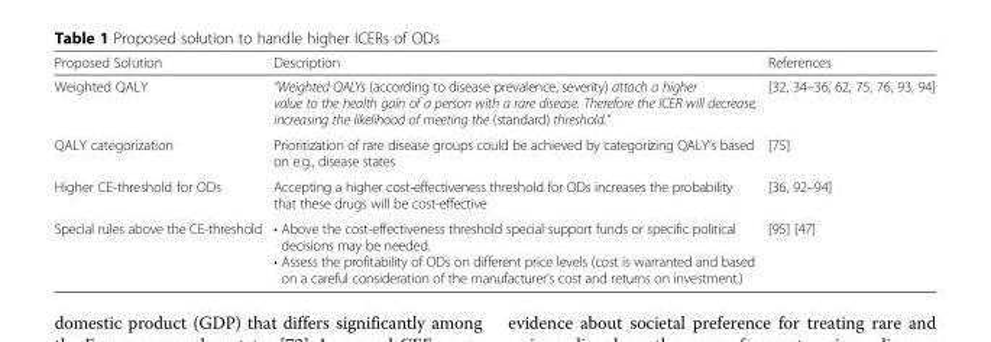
<table><thead><tr><td>Proposed Solution</td><td>Description</td><td>References</td></tr></thead><tbody><tr><td>Weighted QALY</td><td>“Weighted QALYs (according to disease prevalence, severity) attach a higher value to the health gain of a person with a rare disease. Therefore the ICER will decrease, increasing the likelihood of meeting the (standard) threshold.”</td><td>[32, 34–36, 62, 75, 76, 93, 94]</td></tr><tr><td>QALY categorization</td><td>Prioritization of rare disease groups could be achieved by categorizing QALY’s based on e.g., disease states</td><td>[75]</td></tr><tr><td>Higher CE-threshold for ODs</td><td>Accepting a higher cost-effectiveness threshold for ODs increases the probability that these drugs will be cost-effective</td><td>[36, 92–94]</td></tr><tr><td>Special rules above the CE-threshold</td><td>• Above the cost-effectiveness threshold special support funds or specific political decisions may be needed. • Assess the profitability of ODs on different price levels (cost is warranted and based on a careful consideration of the manufacturer’s cost and returns on investment.)</td><td>[95] [47]</td></tr></tbody></table>